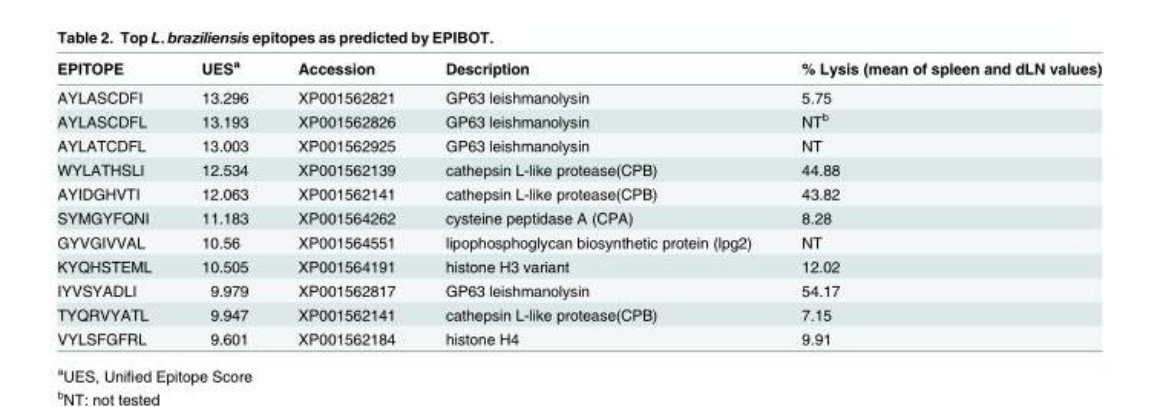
<table><thead><tr><td>EPITOPE</td><td>UES<sup>a</sup></td><td>Accession</td><td>Description</td><td>% Lysis (mean of spleen and dLN values)</td></tr></thead><tbody><tr><td>AYLASCDFI</td><td>13.296</td><td>XP001562821</td><td>GP63 leishmanolysin</td><td>5.75</td></tr><tr><td>AYLASCDFL</td><td>13.193</td><td>XP001562826</td><td>GP63 leishmanolysin</td><td>NT<sup>b</sup></td></tr><tr><td>AYLATCDFL</td><td>13.003</td><td>XP001562925</td><td>GP63 leishmanolysin</td><td>NT</td></tr><tr><td>WYLATHSLI</td><td>12.534</td><td>XP001562139</td><td>cathepsin L-like protease(CPB)</td><td>44.88</td></tr><tr><td>AYIDGHVTI</td><td>12.063</td><td>XP001562141</td><td>cathepsin L-like protease(CPB)</td><td>43.82</td></tr><tr><td>SYMGYFQNI</td><td>11.183</td><td>XP001564262</td><td>cysteine peptidase A (CPA)</td><td>8.28</td></tr><tr><td>GYVGIVVAL</td><td>10.56</td><td>XP001564551</td><td>lipophosphoglycan biosynthetic protein (lpg2)</td><td>NT</td></tr><tr><td>KYQHSTEML</td><td>10.505</td><td>XP001564191</td><td>histone H3 variant</td><td>12.02</td></tr><tr><td>IYVSYADLI</td><td>9.979</td><td>XP001562817</td><td>GP63 leishmanolysin</td><td>54.17</td></tr><tr><td>TYQRVYATL</td><td>9.947</td><td>XP001562141</td><td>cathepsin L-like protease(CPB)</td><td>7.15</td></tr><tr><td>VYLSFGFRL</td><td>9.601</td><td>XP001562184</td><td>histone H4</td><td>9.91</td></tr></tbody></table>